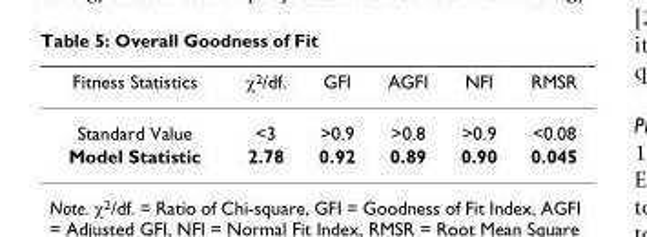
<table><thead><tr><td>Fitness Statistics</td><td>χ<sup>2</sup>/df.</td><td>GFI</td><td>AGFI</td><td>NFI</td><td>RMSR</td></tr></thead><tbody><tr><td>Standard Value</td><td>&lt;3</td><td>&gt;0.9</td><td>&gt;0.8</td><td>&gt;0.9</td><td>&lt;0.08</td></tr><tr><td>Model Statistic</td><td>2.78</td><td>0.92</td><td>0.89</td><td>0.90</td><td>0.045</td></tr></tbody></table>